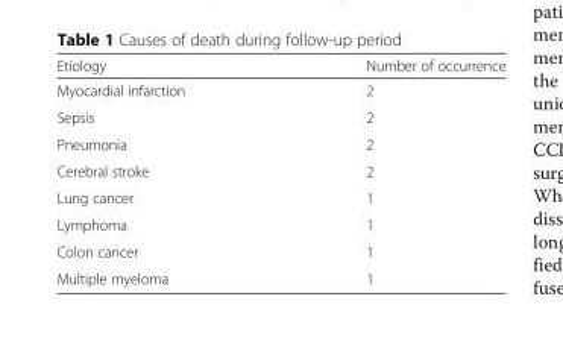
<table><thead><tr><td>Etiology</td><td>Number of occurrence</td></tr></thead><tbody><tr><td>Myocardial infarction</td><td>2</td></tr><tr><td>Sepsis</td><td>2</td></tr><tr><td>Pneumonia</td><td>2</td></tr><tr><td>Cerebral stroke</td><td>2</td></tr><tr><td>Lung cancer</td><td>1</td></tr><tr><td>Lymphoma</td><td>1</td></tr><tr><td>Colon cancer</td><td>1</td></tr><tr><td>Multiple myeloma</td><td>1</td></tr></tbody></table>